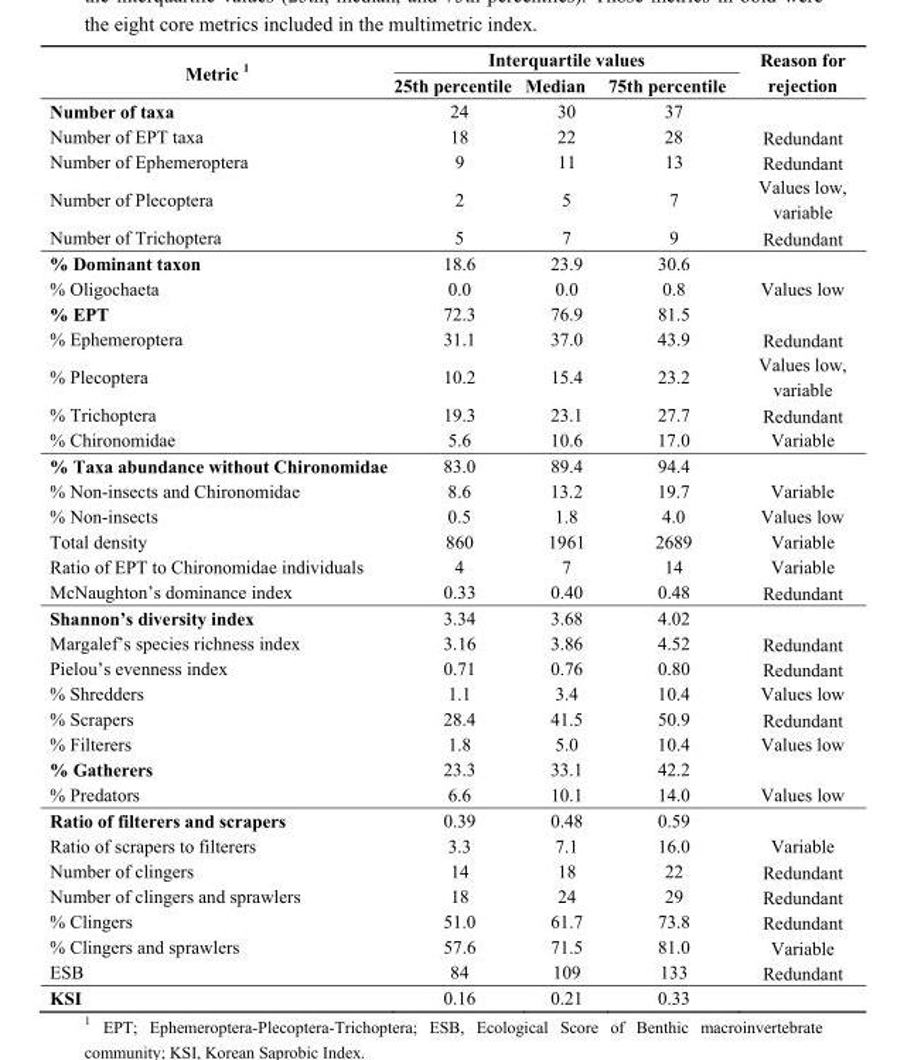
<table><thead><tr><td rowspan="2">Metric <sup>1</sup></td><td colspan="3">Interquartile values</td><td rowspan="2">Reason for rejection</td></tr><tr><td>25th percentile</td><td>Median</td><td>75th percentile</td></tr></thead><tbody><tr><td>Number of taxa</td><td>24</td><td>30</td><td>37</td><td></td></tr><tr><td>Number of EPT taxa</td><td>18</td><td>22</td><td>28</td><td>Redundant</td></tr><tr><td>Number of Ephemeroptera</td><td>9</td><td>11</td><td>13</td><td>Redundant</td></tr><tr><td>Number of Plecoptera</td><td>2</td><td>5</td><td>7</td><td>Values low, variable</td></tr><tr><td>Number of Trichoptera</td><td>5</td><td>7</td><td>9</td><td>Redundant</td></tr><tr><td>% Dominant taxon</td><td>18.6</td><td>23.9</td><td>30.6</td><td></td></tr><tr><td>% Oligochaeta</td><td>0.0</td><td>0.0</td><td>0.8</td><td>Values low</td></tr><tr><td>% EPT</td><td>72.3</td><td>76.9</td><td>81.5</td><td></td></tr><tr><td>% Ephemeroptera</td><td>31.1</td><td>37.0</td><td>43.9</td><td>Redundant</td></tr><tr><td>% Plecoptera</td><td>10.2</td><td>15.4</td><td>23.2</td><td>Values low, variable</td></tr><tr><td>% Trichoptera</td><td>19.3</td><td>23.1</td><td>27.7</td><td>Redundant</td></tr><tr><td>% Chironomidae</td><td>5.6</td><td>10.6</td><td>17.0</td><td>Variable</td></tr><tr><td>% Taxa abundance without Chironomidae</td><td>83.0</td><td>89.4</td><td>94.4</td><td></td></tr><tr><td>% Non-insects and Chironomidae</td><td>8.6</td><td>13.2</td><td>19.7</td><td>Variable</td></tr><tr><td>% Non-insects</td><td>0.5</td><td>1.8</td><td>4.0</td><td>Values low</td></tr><tr><td>Total density</td><td>860</td><td>1961</td><td>2689</td><td>Variable</td></tr><tr><td>Ratio of EPT to Chironomidae individuals</td><td>4</td><td>7</td><td>14</td><td>Variable</td></tr><tr><td>McNaughton’s dominance index</td><td>0.33</td><td>0.40</td><td>0.48</td><td>Redundant</td></tr><tr><td>Shannon’s diversity index</td><td>3.34</td><td>3.68</td><td>4.02</td><td></td></tr><tr><td>Margalef’s species richness index</td><td>3.16</td><td>3.86</td><td>4.52</td><td>Redundant</td></tr><tr><td>Pielou’s evenness index</td><td>0.71</td><td>0.76</td><td>0.80</td><td>Redundant</td></tr><tr><td>% Shredders</td><td>1.1</td><td>3.4</td><td>10.4</td><td>Values low</td></tr><tr><td>% Scrapers</td><td>28.4</td><td>41.5</td><td>50.9</td><td>Redundant</td></tr><tr><td>% Filterers</td><td>1.8</td><td>5.0</td><td>10.4</td><td>Values low</td></tr><tr><td>% Gatherers</td><td>23.3</td><td>33.1</td><td>42.2</td><td></td></tr><tr><td>% Predators</td><td>6.6</td><td>10.1</td><td>14.0</td><td>Values low</td></tr><tr><td>Ratio of filterers and scrapers</td><td>0.39</td><td>0.48</td><td>0.59</td><td></td></tr><tr><td>Ratio of scrapers to filterers</td><td>3.3</td><td>7.1</td><td>16.0</td><td>Variable</td></tr><tr><td>Number of clingers</td><td>14</td><td>18</td><td>22</td><td>Redundant</td></tr><tr><td>Number of clingers and sprawlers</td><td>18</td><td>24</td><td>29</td><td>Redundant</td></tr><tr><td>% Clingers</td><td>51.0</td><td>61.7</td><td>73.8</td><td>Redundant</td></tr><tr><td>% Clingers and sprawlers</td><td>57.6</td><td>71.5</td><td>81.0</td><td>Variable</td></tr><tr><td>ESB</td><td>84</td><td>109</td><td>133</td><td>Redundant</td></tr><tr><td>KSI</td><td>0.16</td><td>0.21</td><td>0.33</td><td></td></tr></tbody></table>